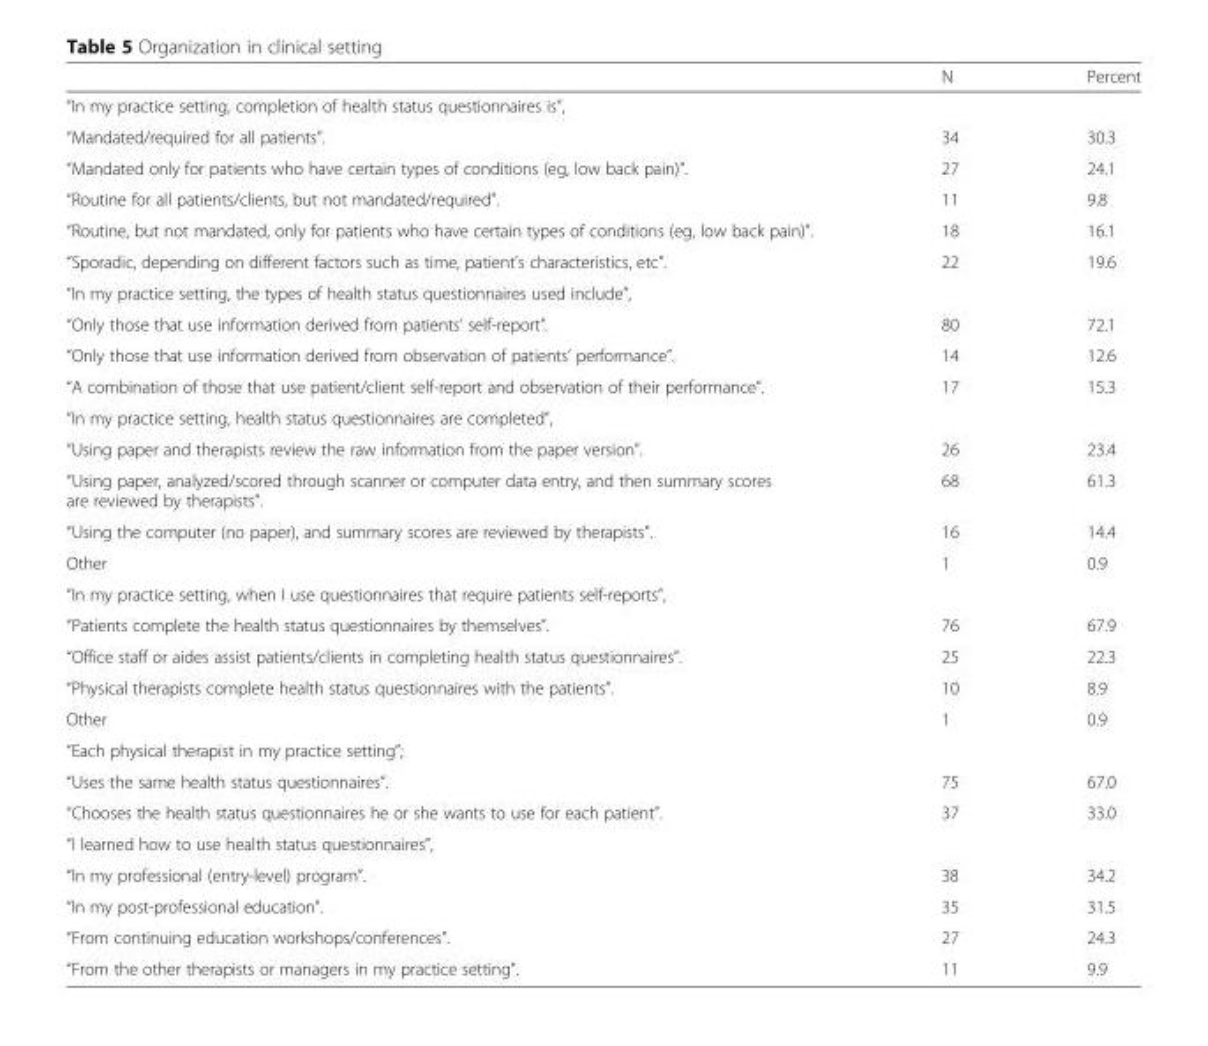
<table><thead><tr><td></td><td>N</td><td>Percent</td></tr></thead><tbody><tr><td colspan="3">“In my practice setting, completion of health status questionnaires is”,</td></tr><tr><td>“Mandated/required for all patients”.</td><td>34</td><td>30.3</td></tr><tr><td>“Mandated only for patients who have certain types of conditions (eg, low back pain)”.</td><td>27</td><td>24.1</td></tr><tr><td>“Routine for all patients/clients, but not mandated/required”.</td><td>11</td><td>9.8</td></tr><tr><td>“Routine, but not mandated, only for patients who have certain types of conditions (eg, low back pain)”.</td><td>18</td><td>16.1</td></tr><tr><td>“Sporadic, depending on different factors such as time, patient’s characteristics, etc”.</td><td>22</td><td>19.6</td></tr><tr><td colspan="3">“In my practice setting, the types of health status questionnaires used include”,</td></tr><tr><td>“Only those that use information derived from patients’ self-report”.</td><td>80</td><td>72.1</td></tr><tr><td>“Only those that use information derived from observation of patients’ performance”.</td><td>14</td><td>12.6</td></tr><tr><td>“A combination of those that use patient/client self-report and observation of their performance”.</td><td>17</td><td>15.3</td></tr><tr><td colspan="3">“In my practice setting, health status questionnaires are completed”,</td></tr><tr><td>“Using paper and therapists review the raw information from the paper version”.</td><td>26</td><td>23.4</td></tr><tr><td>“Using paper, analyzed/scored through scanner or computer data entry, and then summary scores are reviewed by therapists”.</td><td>68</td><td>61.3</td></tr><tr><td>“Using the computer (no paper), and summary scores are reviewed by therapists”.</td><td>16</td><td>14.4</td></tr><tr><td>Other</td><td>1</td><td>0.9</td></tr><tr><td colspan="3">“In my practice setting, when I use questionnaires that require patients self-reports”,</td></tr><tr><td>“Patients complete the health status questionnaires by themselves”.</td><td>76</td><td>67.9</td></tr><tr><td>“Office staff or aides assist patients/clients in completing health status questionnaires”.</td><td>25</td><td>22.3</td></tr><tr><td>“Physical therapists complete health status questionnaires with the patients”.</td><td>10</td><td>8.9</td></tr><tr><td>Other</td><td>1</td><td>0.9</td></tr><tr><td colspan="3">“Each physical therapist in my practice setting”;</td></tr><tr><td>“Uses the same health status questionnaires”.</td><td>75</td><td>67.0</td></tr><tr><td>“Chooses the health status questionnaires he or she wants to use for each patient”.</td><td>37</td><td>33.0</td></tr><tr><td colspan="3">“I learned how to use health status questionnaires”,</td></tr><tr><td>“In my professional (entry-level) program”.</td><td>38</td><td>34.2</td></tr><tr><td>“In my post-professional education”.</td><td>35</td><td>31.5</td></tr><tr><td>“From continuing education workshops/conferences”.</td><td>27</td><td>24.3</td></tr><tr><td>“From the other therapists or managers in my practice setting”.</td><td>11</td><td>9.9</td></tr></tbody></table>